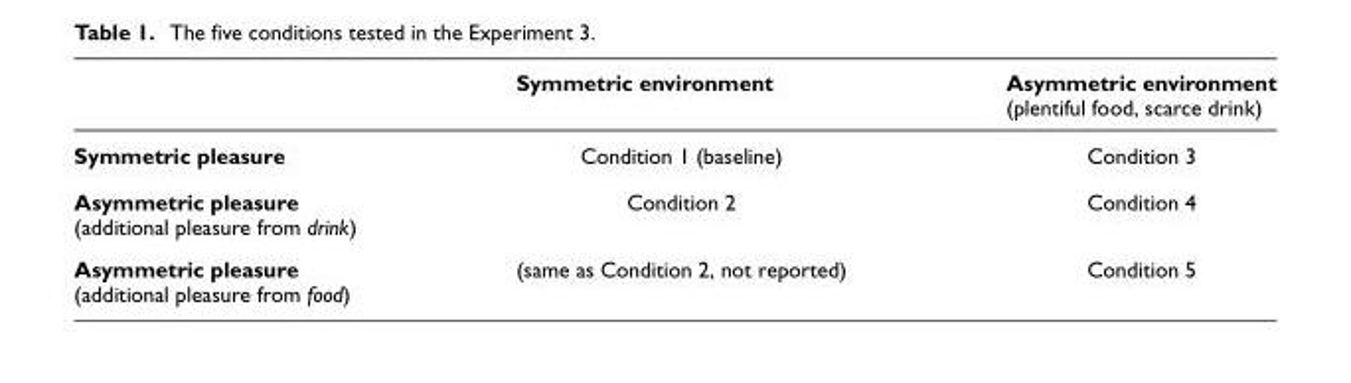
<table><thead><tr><td></td><td>Symmetric environment</td><td>Asymmetric environment (plentiful food, scarce drink)</td></tr></thead><tbody><tr><td>Symmetric pleasure</td><td>Condition 1 (baseline)</td><td>Condition 3</td></tr><tr><td>Asymmetric pleasure (additional pleasure from drink)</td><td>Condition 2</td><td>Condition 4</td></tr><tr><td>Asymmetric pleasure (additional pleasure from food)</td><td>(same as Condition 2, not reported)</td><td>Condition 5</td></tr></tbody></table>